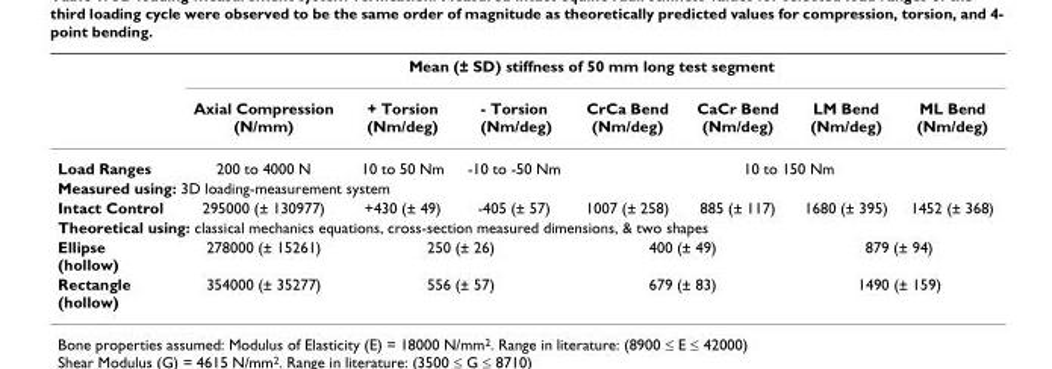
<table><thead><tr><td rowspan="2"></td><td colspan="7">Mean (± SD) stiffness of 50 mm long test segment</td></tr><tr><td>Axial Compression (N/mm)</td><td>+ Torsion (Nm/deg)</td><td>- Torsion (Nm/deg)</td><td>CrCa Bend (Nm/deg)</td><td>CaCr Bend (Nm/deg)</td><td>LM Bend (Nm/deg)</td><td>ML Bend (Nm/deg)</td></tr></thead><tbody><tr><td>Load Ranges</td><td>200 to 4000 N</td><td>10 to 50 Nm</td><td>-10 to -50 Nm</td><td colspan="4">10 to 150 Nm</td></tr><tr><td colspan="8">Measured using: 3D loading-measurement system</td></tr><tr><td>Intact Control</td><td>295000 (± 130977)</td><td>+430 (± 49)</td><td>-405 (± 57)</td><td>1007 (± 258)</td><td>885 (± 117)</td><td>1680 (± 395)</td><td>1452 (± 368)</td></tr><tr><td colspan="8">Theoretical using: classical mechanics equations, cross-section measured dimensions, &amp; two shapes</td></tr><tr><td>Ellipse (hollow)</td><td>278000 (± 15261)</td><td colspan="2">250 (± 26)</td><td colspan="2">400 (± 49)</td><td colspan="2">879 (± 94)</td></tr><tr><td>Rectangle (hollow)</td><td>354000 (± 35277)</td><td colspan="2">556 (± 57)</td><td colspan="2">679 (± 83)</td><td colspan="2">1490 (± 159)</td></tr></tbody></table>